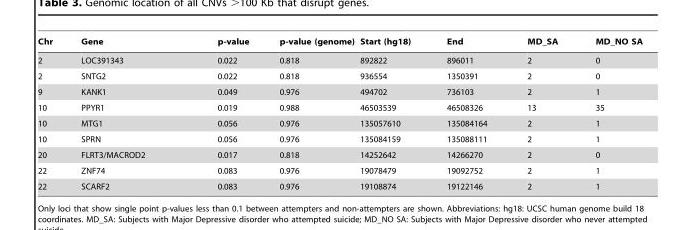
<table><thead><tr><td>Chr</td><td>Gene</td><td>p-value</td><td>p-value (genome)</td><td>Start (hg18)</td><td>End</td><td>MD_SA</td><td>MD_NO SA</td></tr></thead><tbody><tr><td>2</td><td>LOC391343</td><td>0.022</td><td>0.818</td><td>892822</td><td>896011</td><td>2</td><td>0</td></tr><tr><td>2</td><td>SNTG2</td><td>0.022</td><td>0.818</td><td>936554</td><td>1350391</td><td>2</td><td>0</td></tr><tr><td>9</td><td>KANK1</td><td>0.049</td><td>0.976</td><td>494702</td><td>736103</td><td>2</td><td>1</td></tr><tr><td>10</td><td>PPYR1</td><td>0.019</td><td>0.988</td><td>46503539</td><td>46508326</td><td>13</td><td>35</td></tr><tr><td>10</td><td>MTG1</td><td>0.056</td><td>0.976</td><td>135057610</td><td>135084164</td><td>2</td><td>1</td></tr><tr><td>10</td><td>SPRN</td><td>0.056</td><td>0.976</td><td>135084159</td><td>135088111</td><td>2</td><td>1</td></tr><tr><td>20</td><td>FLRT3/MACROD2</td><td>0.017</td><td>0.818</td><td>14252642</td><td>14266270</td><td>2</td><td>0</td></tr><tr><td>22</td><td>ZNF74</td><td>0.083</td><td>0.976</td><td>19078479</td><td>19092752</td><td>2</td><td>1</td></tr><tr><td>22</td><td>SCARF2</td><td>0.083</td><td>0.976</td><td>19108874</td><td>19122146</td><td>2</td><td>1</td></tr></tbody></table>